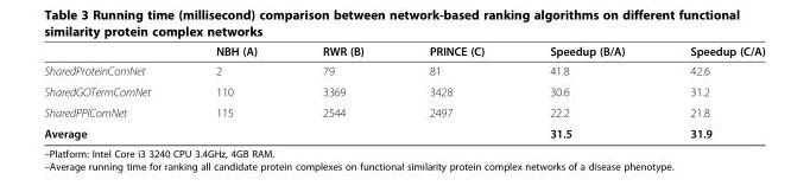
<table><thead><tr><td></td><td>NBH (A)</td><td>RWR (B)</td><td>PRINCE (C)</td><td>Speedup (B/A)</td><td>Speedup (C/A)</td></tr></thead><tbody><tr><td>SharedProteinComNet</td><td>2</td><td>79</td><td>81</td><td>41.8</td><td>42.6</td></tr><tr><td>SharedGOTermComNet</td><td>110</td><td>3369</td><td>3428</td><td>30.6</td><td>31.2</td></tr><tr><td>SharedPPIComNet</td><td>115</td><td>2544</td><td>2497</td><td>22.2</td><td>21.8</td></tr><tr><td colspan="4">Average</td><td>31.5</td><td>31.9</td></tr></tbody></table>